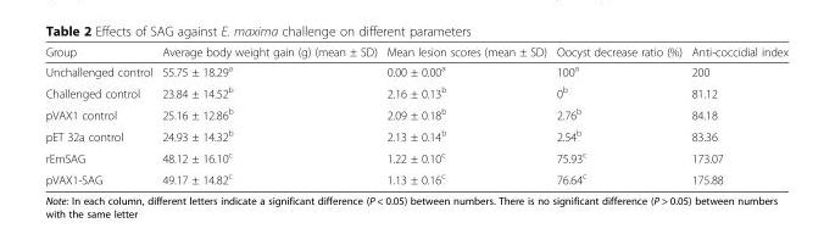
<table><thead><tr><td>Group</td><td>Average body weight gain (g) (mean ± SD)</td><td>Mean lesion scores (mean ± SD)</td><td>Oocyst decrease ratio (%)</td><td>Anti-coccidial index</td></tr></thead><tbody><tr><td>Unchallenged control</td><td>55.75 ± 18.29<sup>a</sup></td><td>0.00 ± 0.00<sup>a</sup></td><td>100<sup>a</sup></td><td>200</td></tr><tr><td>Challenged control</td><td>23.84 ± 14.52<sup>b</sup></td><td>2.16 ± 0.13<sup>b</sup></td><td>0<sup>b</sup></td><td>81.12</td></tr><tr><td>pVAX1 control</td><td>25.16 ± 12.86<sup>b</sup></td><td>2.09 ± 0.18<sup>b</sup></td><td>2.76<sup>b</sup></td><td>84.18</td></tr><tr><td>pET 32a control</td><td>24.93 ± 14.32<sup>b</sup></td><td>2.13 ± 0.14<sup>b</sup></td><td>2.54<sup>b</sup></td><td>83.36</td></tr><tr><td>rEmSAG</td><td>48.12 ± 16.10<sup>c</sup></td><td>1.22 ± 0.10<sup>c</sup></td><td>75.93<sup>c</sup></td><td>173.07</td></tr><tr><td>pVAX1-SAG</td><td>49.17 ± 14.82<sup>c</sup></td><td>1.13 ± 0.16<sup>c</sup></td><td>76.64<sup>c</sup></td><td>175.88</td></tr></tbody></table>